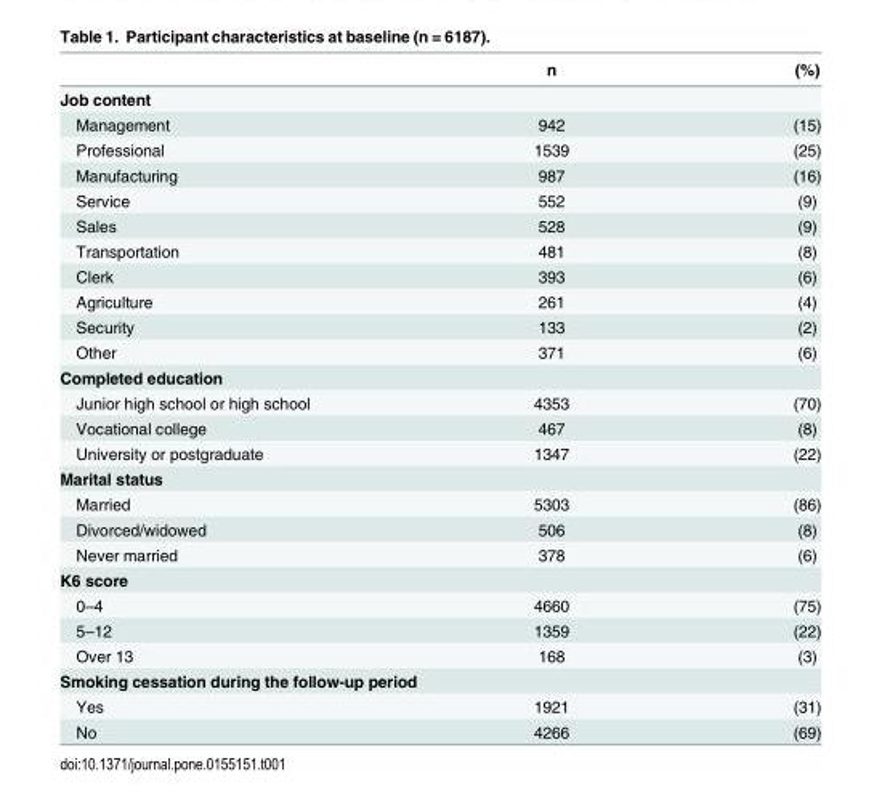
<table><thead><tr><td></td><td>n</td><td>(%)</td></tr></thead><tbody><tr><td colspan="3">Job content</td></tr><tr><td>Management</td><td>942</td><td>(15)</td></tr><tr><td>Professional</td><td>1539</td><td>(25)</td></tr><tr><td>Manufacturing</td><td>987</td><td>(16)</td></tr><tr><td>Service</td><td>552</td><td>(9)</td></tr><tr><td>Sales</td><td>528</td><td>(9)</td></tr><tr><td>Transportation</td><td>481</td><td>(8)</td></tr><tr><td>Clerk</td><td>393</td><td>(6)</td></tr><tr><td>Agriculture</td><td>261</td><td>(4)</td></tr><tr><td>Security</td><td>133</td><td>(2)</td></tr><tr><td>Other</td><td>371</td><td>(6)</td></tr><tr><td colspan="3">Completed education</td></tr><tr><td>Junior high school or high school</td><td>4353</td><td>(70)</td></tr><tr><td>Vocational college</td><td>467</td><td>(8)</td></tr><tr><td>University or postgraduate</td><td>1347</td><td>(22)</td></tr><tr><td colspan="3">Marital status</td></tr><tr><td>Married</td><td>5303</td><td>(86)</td></tr><tr><td>Divorced/widowed</td><td>506</td><td>(8)</td></tr><tr><td>Never married</td><td>378</td><td>(6)</td></tr><tr><td colspan="3">K6 score</td></tr><tr><td>0–4</td><td>4660</td><td>(75)</td></tr><tr><td>5–12</td><td>1359</td><td>(22)</td></tr><tr><td>Over 13</td><td>168</td><td>(3)</td></tr><tr><td colspan="3">Smoking cessation during the follow-up period</td></tr><tr><td>Yes</td><td>1921</td><td>(31)</td></tr><tr><td>No</td><td>4266</td><td>(69)</td></tr></tbody></table>